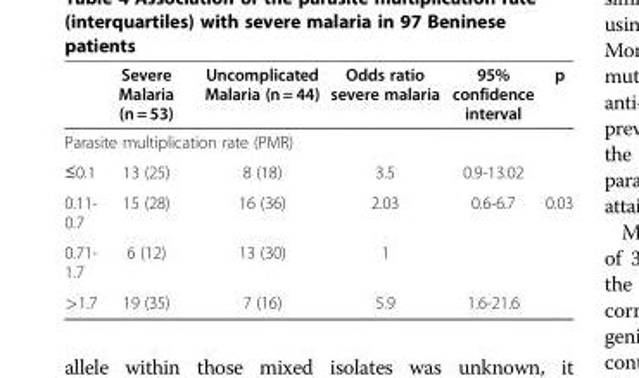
<table><thead><tr><td></td><td>Severe Malaria (n = 53)</td><td>Uncomplicated Malaria (n = 44)</td><td>Odds ratio severe malaria</td><td>95% confidence interval</td><td>p</td></tr></thead><tbody><tr><td colspan="6">Parasite multiplication rate (PMR)</td></tr><tr><td>≤0.1</td><td>13 (25)</td><td>8 (18)</td><td>3.5</td><td>0.9-13.02</td><td></td></tr><tr><td>0.11- 0.7</td><td>15 (28)</td><td>16 (36)</td><td>2.03</td><td>0.6-6.7</td><td>0.03</td></tr><tr><td>0.71- 1.7</td><td>6 (12)</td><td>13 (30)</td><td>1</td><td></td><td></td></tr><tr><td>&gt;1.7</td><td>19 (35)</td><td>7 (16)</td><td>5.9</td><td>1.6-21.6</td><td></td></tr></tbody></table>